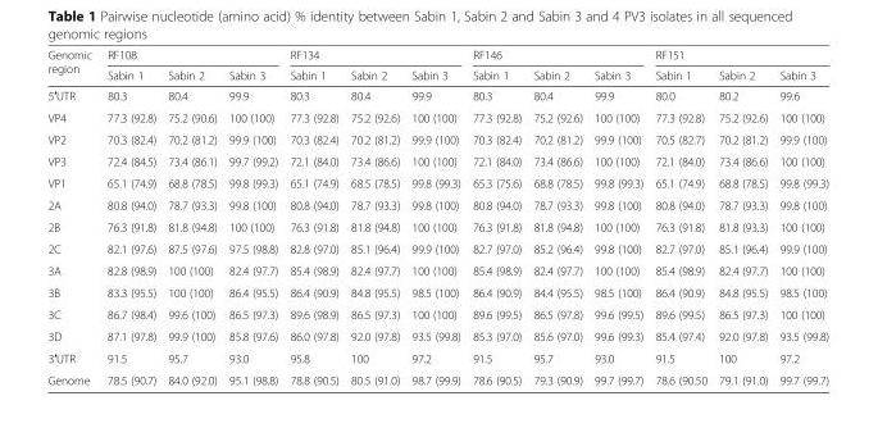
<table><thead><tr><td rowspan="2">Genomic region</td><td colspan="3">RF108</td><td colspan="3">RF134</td><td colspan="3">RF146</td><td colspan="3">RF151</td></tr><tr><td>Sabin 1</td><td>Sabin 2</td><td>Sabin 3</td><td>Sabin 1</td><td>Sabin 2</td><td>Sabin 3</td><td>Sabin 1</td><td>Sabin 2</td><td>Sabin 3</td><td>Sabin 1</td><td>Sabin 2</td><td>Sabin 3</td></tr></thead><tbody><tr><td>5′UTR</td><td>80.3</td><td>80.4</td><td>99.9</td><td>80.3</td><td>80.4</td><td>99.9</td><td>80.3</td><td>80.4</td><td>99.9</td><td>80.0</td><td>80.2</td><td>99.6</td></tr><tr><td>VP4</td><td>77.3 (92.8)</td><td>75.2 (90.6)</td><td>100 (100)</td><td>77.3 (92.8)</td><td>75.2 (92.6)</td><td>100 (100)</td><td>77.3 (92.8)</td><td>75.2 (92.6)</td><td>100 (100)</td><td>77.3 (92.8)</td><td>75.2 (92.6)</td><td>100 (100)</td></tr><tr><td>VP2</td><td>70.3 (82.4)</td><td>70.2 (81.2)</td><td>99.9 (100)</td><td>70.3 (82.4)</td><td>70.2 (81.2)</td><td>99.9 (100)</td><td>70.3 (82.4)</td><td>70.2 (81.2)</td><td>99.9 (100)</td><td>70.5 (82.7)</td><td>70.2 (81.2)</td><td>99.9 (100)</td></tr><tr><td>VP3</td><td>72.4 (84.5)</td><td>73.4 (86.1)</td><td>99.7 (99.2)</td><td>72.1 (84.0)</td><td>73.4 (86.6)</td><td>100 (100)</td><td>72.1 (84.0)</td><td>73.4 (86.6)</td><td>100 (100)</td><td>72.1 (84.0)</td><td>73.4 (86.6)</td><td>100 (100)</td></tr><tr><td>VP1</td><td>65.1 (74.9)</td><td>68.8 (78.5)</td><td>99.8 (99.3)</td><td>65.1 (74.9)</td><td>68.5 (78.5)</td><td>99.8 (99.3)</td><td>65.3 (75.6)</td><td>68.8 (78.5)</td><td>99.8 (99.3)</td><td>65.1 (74.9)</td><td>68.8 (78.5)</td><td>99.8 (99.3)</td></tr><tr><td>2A</td><td>80.8 (94.0)</td><td>78.7 (93.3)</td><td>99.8 (100)</td><td>80.8 (94.0)</td><td>78.7 (93.3)</td><td>99.8 (100)</td><td>80.8 (94.0)</td><td>78.7 (93.3)</td><td>99.8 (100)</td><td>80.8 (94.0)</td><td>78.7 (93.3)</td><td>99.8 (100)</td></tr><tr><td>2B</td><td>76.3 (91.8)</td><td>81.8 (94.8)</td><td>100 (100)</td><td>76.3 (91.8)</td><td>81.8 (94.8)</td><td>100 (100)</td><td>76.3 (91.8)</td><td>81.8 (94.8)</td><td>100 (100)</td><td>76.3 (91.8)</td><td>81.8 (93.3)</td><td>100 (100)</td></tr><tr><td>2C</td><td>82.1 (97.6)</td><td>87.5 (97.6)</td><td>97.5 (98.8)</td><td>82.8 (97.0)</td><td>85.1 (96.4)</td><td>99.9 (100)</td><td>82.7 (97.0)</td><td>85.2 (96.4)</td><td>99.8 (100)</td><td>82.7 (97.0)</td><td>85.1 (96.4)</td><td>99.9 (100)</td></tr><tr><td>3A</td><td>82.8 (98.9)</td><td>100 (100)</td><td>82.4 (97.7)</td><td>85.4 (98.9)</td><td>82.4 (97.7)</td><td>100 (100)</td><td>85.4 (98.9)</td><td>82.4 (97.7)</td><td>100 (100)</td><td>85.4 (98.9)</td><td>82.4 (97.7)</td><td>100 (100)</td></tr><tr><td>3B</td><td>83.3 (95.5)</td><td>100 (100)</td><td>86.4 (95.5)</td><td>86.4 (90.9)</td><td>84.8 (95.5)</td><td>98.5 (100)</td><td>86.4 (90.9)</td><td>84.4 (95.5)</td><td>98.5 (100)</td><td>86.4 (90.9)</td><td>84.8 (95.5)</td><td>98.5 (100)</td></tr><tr><td>3C</td><td>86.7 (98.4)</td><td>99.6 (100)</td><td>86.5 (97.3)</td><td>89.6 (98.9)</td><td>86.5 (97.3)</td><td>100 (100)</td><td>89.6 (99.5)</td><td>86.5 (97.8)</td><td>99.6 (99.5)</td><td>89.6 (99.5)</td><td>86.5 (97.3)</td><td>100 (100)</td></tr><tr><td>3D</td><td>87.1 (97.8)</td><td>99.9 (100)</td><td>85.8 (97.6)</td><td>86.0 (97.8)</td><td>92.0 (97.8)</td><td>93.5 (99.8)</td><td>85.3 (97.0)</td><td>85.6 (97.0)</td><td>99.6 (99.3)</td><td>85.4 (97.4)</td><td>92.0 (97.8)</td><td>93.5 (99.8)</td></tr><tr><td>3′UTR</td><td>91.5</td><td>95.7</td><td>93.0</td><td>95.8</td><td>100</td><td>97.2</td><td>91.5</td><td>95.7</td><td>93.0</td><td>91.5</td><td>100</td><td>97.2</td></tr><tr><td>Genome</td><td>78.5 (90.7)</td><td>84.0 (92.0)</td><td>95.1 (98.8)</td><td>78.8 (90.5)</td><td>80.5 (91.0)</td><td>98.7 (99.9)</td><td>78.6 (90.5)</td><td>79.3 (90.9)</td><td>99.7 (99.7)</td><td>78.6 (90.50</td><td>79.1 (91.0)</td><td>99.7 (99.7)</td></tr></tbody></table>